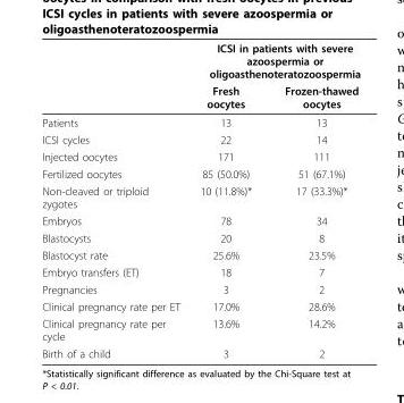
<table><thead><tr><td rowspan="2"></td><td colspan="2">ICSI in patients with severe azoospermia or oligoasthenoteratozoospermia</td></tr><tr><td>Fresh oocytes</td><td>Frozen-thawed oocytes</td></tr></thead><tbody><tr><td>Patients</td><td>13</td><td>13</td></tr><tr><td>ICSI cycles</td><td>22</td><td>14</td></tr><tr><td>Injected oocytes</td><td>171</td><td>111</td></tr><tr><td>Fertilized oocytes</td><td>85 (50.0%)</td><td>51 (67.1%)</td></tr><tr><td>Non-cleaved or triploid zygotes</td><td>10 (11.8%)*</td><td>17 (33.3%)*</td></tr><tr><td>Embryos</td><td>78</td><td>34</td></tr><tr><td>Blastocysts</td><td>20</td><td>8</td></tr><tr><td>Blastocyst rate</td><td>25.6%</td><td>23.5%</td></tr><tr><td>Embryo transfers (ET)</td><td>18</td><td>7</td></tr><tr><td>Pregnancies</td><td>3</td><td>2</td></tr><tr><td>Clinical pregnancy rate per ET</td><td>17.0%</td><td>28.6%</td></tr><tr><td>Clinical pregnancy rate per cycle</td><td>13.6%</td><td>14.2%</td></tr><tr><td>Birth of a child</td><td>3</td><td>2</td></tr></tbody></table>